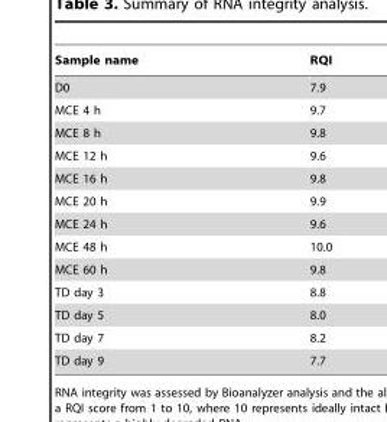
<table><thead><tr><td>Sample name</td><td>RQI</td></tr></thead><tbody><tr><td>D0</td><td>7.9</td></tr><tr><td>MCE 4 h</td><td>9.7</td></tr><tr><td>MCE 8 h</td><td>9.8</td></tr><tr><td>MCE 12 h</td><td>9.6</td></tr><tr><td>MCE 16 h</td><td>9.8</td></tr><tr><td>MCE 20 h</td><td>9.9</td></tr><tr><td>MCE 24 h</td><td>9.6</td></tr><tr><td>MCE 48 h</td><td>10.0</td></tr><tr><td>MCE 60 h</td><td>9.8</td></tr><tr><td>TD day 3</td><td>8.8</td></tr><tr><td>TD day 5</td><td>8.0</td></tr><tr><td>TD day 7</td><td>8.2</td></tr><tr><td>TD day 9</td><td>7.7</td></tr></tbody></table>